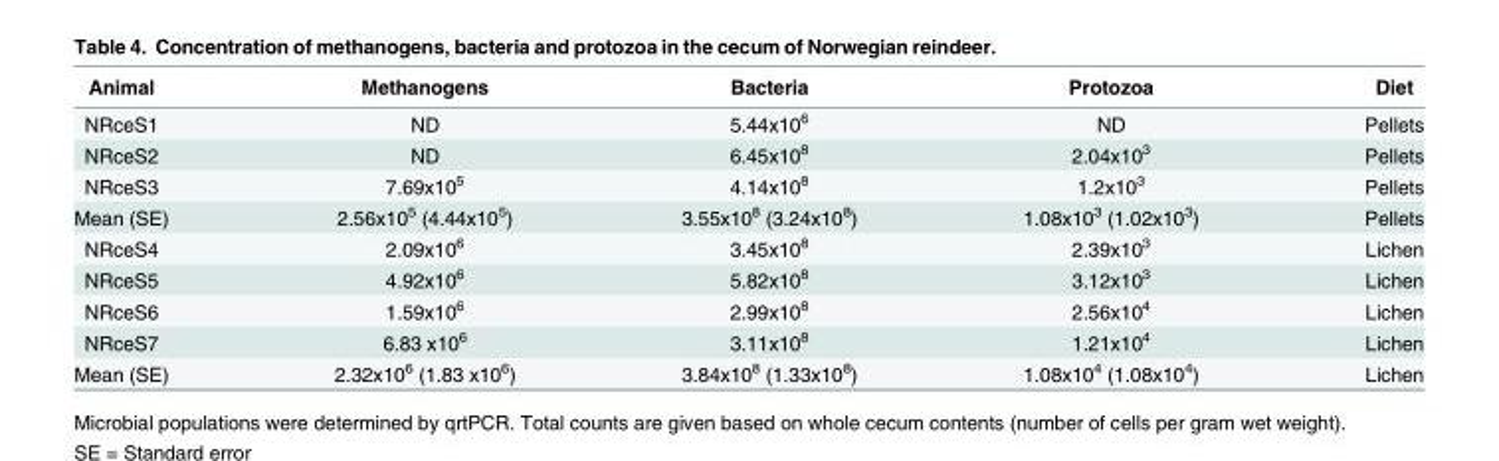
<table><thead><tr><td>Animal</td><td>Methanogens</td><td>Bacteria</td><td>Protozoa</td><td>Diet</td></tr></thead><tbody><tr><td>NRceS1</td><td>ND</td><td>5.44x10<sup>6</sup></td><td>ND</td><td>Pellets</td></tr><tr><td>NRceS2</td><td>ND</td><td>6.45x10<sup>8</sup></td><td>2.04x10<sup>3</sup></td><td>Pellets</td></tr><tr><td>NRceS3</td><td>7.69x10<sup>5</sup></td><td>4.14x10<sup>8</sup></td><td>1.2x10<sup>3</sup></td><td>Pellets</td></tr><tr><td>Mean (SE)</td><td>2.56x10<sup>5</sup> (4.44x10<sup>5</sup>)</td><td>3.55x10<sup>8</sup> (3.24x10<sup>8</sup>)</td><td>1.08x10<sup>3</sup> (1.02x10<sup>3</sup>)</td><td>Pellets</td></tr><tr><td>NRceS4</td><td>2.09x10<sup>6</sup></td><td>3.45x10<sup>8</sup></td><td>2.39x10<sup>3</sup></td><td>Lichen</td></tr><tr><td>NRceS5</td><td>4.92x10<sup>6</sup></td><td>5.82x10<sup>8</sup></td><td>3.12x10<sup>3</sup></td><td>Lichen</td></tr><tr><td>NRceS6</td><td>1.59x10<sup>6</sup></td><td>2.99x10<sup>8</sup></td><td>2.56x10<sup>4</sup></td><td>Lichen</td></tr><tr><td>NRceS7</td><td>6.83 x10<sup>6</sup></td><td>3.11x10<sup>8</sup></td><td>1.21x10<sup>4</sup></td><td>Lichen</td></tr><tr><td>Mean (SE)</td><td>2.32x10<sup>6</sup> (1.83 x10<sup>6</sup>)</td><td>3.84x10<sup>8</sup> (1.33x10<sup>8</sup>)</td><td>1.08x10<sup>4</sup> (1.08x10<sup>4</sup>)</td><td>Lichen</td></tr></tbody></table>